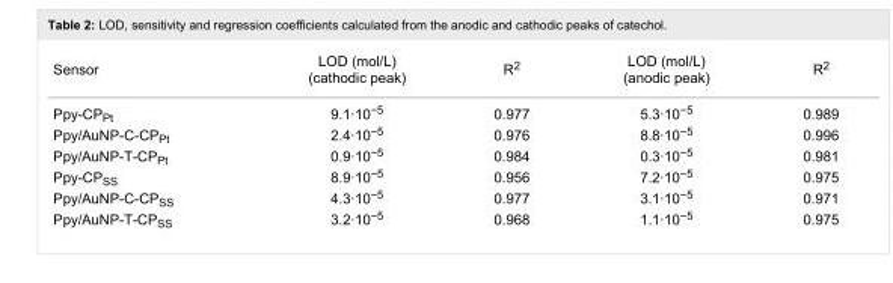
<table><tbody><tr><td>Sensor</td><td>LOD (mol/L) (cathodic peak)</td><td>R<sup>2</sup></td><td>LOD (mol/L) (anodic peak)</td><td>R<sup>2</sup></td></tr><tr><td>Ppy-CP<sub>Pt</sub></td><td>9.1·10<sup>−5</sup></td><td>0.977</td><td>5.3·10<sup>−5</sup></td><td>0.989</td></tr><tr><td>Ppy/AuNP-C-CP<sub>Pt</sub></td><td>2.4·10<sup>−5</sup></td><td>0.976</td><td>8.8·10<sup>−5</sup></td><td>0.996</td></tr><tr><td>Ppy/AuNP-T-CP<sub>Pt</sub></td><td>0.9·10<sup>−5</sup></td><td>0.984</td><td>0.3·10<sup>−5</sup></td><td>0.981</td></tr><tr><td>Ppy-CP<sub>SS</sub></td><td>8.9·10<sup>−5</sup></td><td>0.956</td><td>7.2·10<sup>−5</sup></td><td>0.975</td></tr><tr><td>Ppy/AuNP-C-CP<sub>SS</sub></td><td>4.3·10<sup>−5</sup></td><td>0.977</td><td>3.1·10<sup>−5</sup></td><td>0.971</td></tr><tr><td>Ppy/AuNP-T-CP<sub>SS</sub></td><td>3.2·10<sup>−5</sup></td><td>0.968</td><td>1.1·10<sup>−5</sup></td><td>0.975</td></tr></tbody></table>